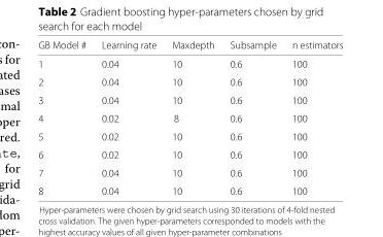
<table><thead><tr><td>GB Model #</td><td>Learning rate</td><td>Maxdepth</td><td>Subsample</td><td>n estimators</td></tr></thead><tbody><tr><td>1</td><td>0.04</td><td>10</td><td>0.6</td><td>100</td></tr><tr><td>2</td><td>0.04</td><td>10</td><td>0.6</td><td>100</td></tr><tr><td>3</td><td>0.04</td><td>10</td><td>0.6</td><td>100</td></tr><tr><td>4</td><td>0.02</td><td>8</td><td>0.6</td><td>100</td></tr><tr><td>5</td><td>0.02</td><td>10</td><td>0.6</td><td>100</td></tr><tr><td>6</td><td>0.02</td><td>10</td><td>0.6</td><td>100</td></tr><tr><td>7</td><td>0.04</td><td>10</td><td>0.6</td><td>100</td></tr><tr><td>8</td><td>0.04</td><td>10</td><td>0.6</td><td>100</td></tr></tbody></table>